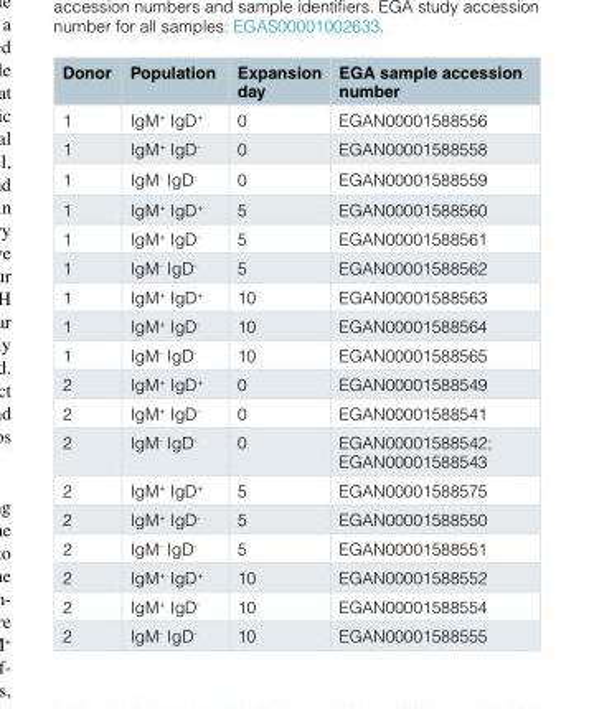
<table><thead><tr><td>Donor</td><td>Population</td><td>Expansion day</td><td>EGA sample accession number</td></tr></thead><tbody><tr><td>1</td><td>IgM<sup>+</sup> IgD<sup>+</sup></td><td>0</td><td>EGAN00001588556</td></tr><tr><td>1</td><td>IgM<sup>+</sup> IgD<sup>-</sup></td><td>0</td><td>EGAN00001588558</td></tr><tr><td>1</td><td>IgM<sup>-</sup> IgD<sup>-</sup></td><td>0</td><td>EGAN00001588559</td></tr><tr><td>1</td><td>IgM<sup>+</sup> IgD<sup>+</sup></td><td>5</td><td>EGAN00001588560</td></tr><tr><td>1</td><td>IgM<sup>+</sup> IgD<sup>-</sup></td><td>5</td><td>EGAN00001588561</td></tr><tr><td>1</td><td>IgM<sup>-</sup> IgD<sup>-</sup></td><td>5</td><td>EGAN00001588562</td></tr><tr><td>1</td><td>IgM<sup>+</sup> IgD<sup>+</sup></td><td>10</td><td>EGAN00001588563</td></tr><tr><td>1</td><td>IgM<sup>+</sup> IgD<sup>-</sup></td><td>10</td><td>EGAN00001588564</td></tr><tr><td>1</td><td>IgM<sup>-</sup> IgD<sup>-</sup></td><td>10</td><td>EGAN00001588565</td></tr><tr><td>2</td><td>IgM<sup>+</sup> IgD<sup>+</sup></td><td>0</td><td>EGAN00001588549</td></tr><tr><td>2</td><td>IgM<sup>+</sup> IgD<sup>-</sup></td><td>0</td><td>EGAN00001588541</td></tr><tr><td>2</td><td>IgM<sup>-</sup> IgD<sup>-</sup></td><td>0</td><td>EGAN00001588542; EGAN00001588543</td></tr><tr><td>2</td><td>IgM<sup>+</sup> IgD<sup>+</sup></td><td>5</td><td>EGAN00001588575</td></tr><tr><td>2</td><td>IgM<sup>+</sup> IgD<sup>-</sup></td><td>5</td><td>EGAN00001588550</td></tr><tr><td>2</td><td>IgM<sup>-</sup> IgD<sup>-</sup></td><td>5</td><td>EGAN00001588551</td></tr><tr><td>2</td><td>IgM<sup>+</sup> IgD<sup>+</sup></td><td>10</td><td>EGAN00001588552</td></tr><tr><td>2</td><td>IgM<sup>+</sup> IgD<sup>-</sup></td><td>10</td><td>EGAN00001588554</td></tr><tr><td>2</td><td>IgM<sup>-</sup> IgD<sup>-</sup></td><td>10</td><td>EGAN00001588555</td></tr></tbody></table>